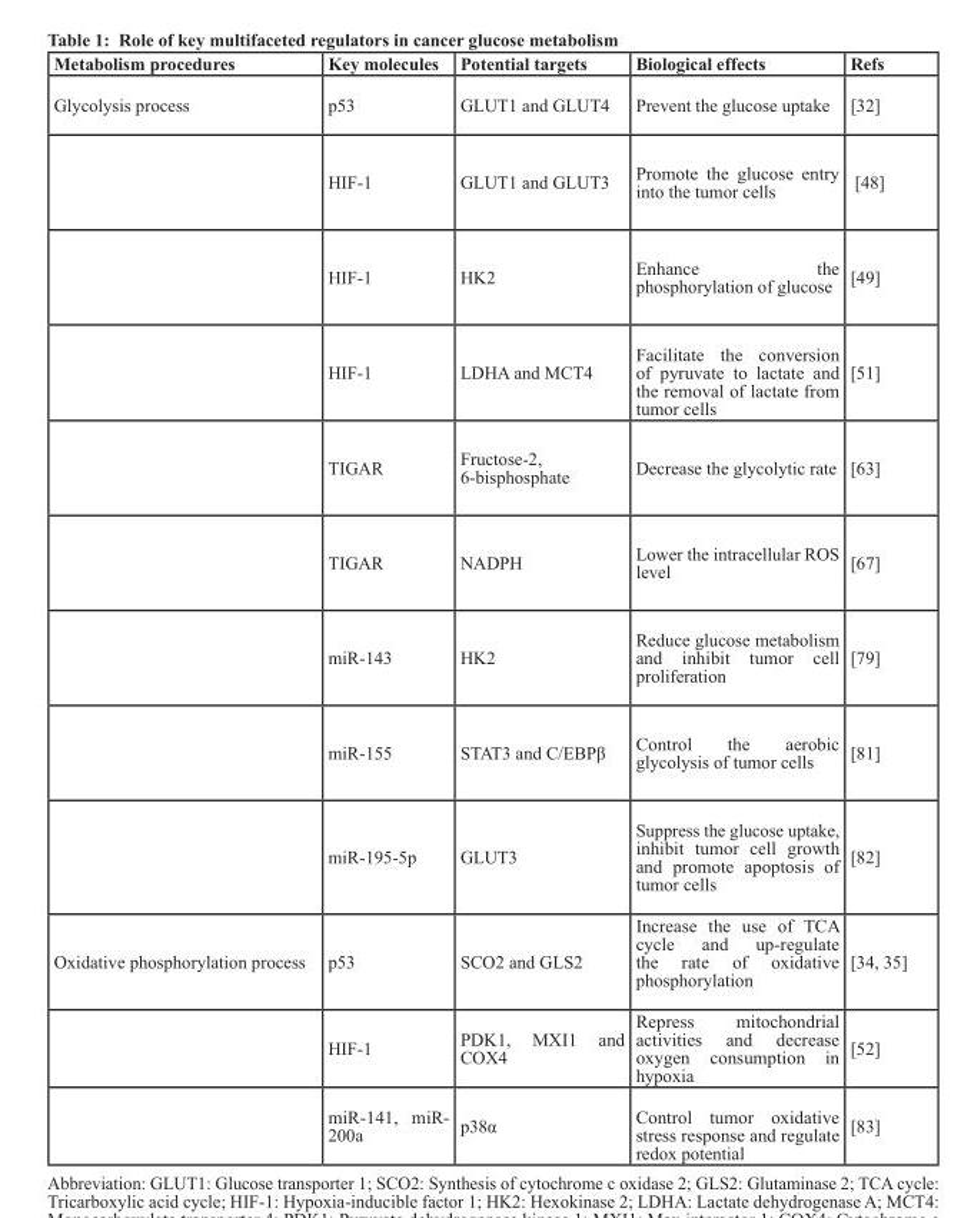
<table><thead><tr><td>Metabolism procedures</td><td>Key molecules</td><td>Potential targets</td><td>Biological effects</td><td>Refs</td></tr></thead><tbody><tr><td rowspan="9">Glycolysis process</td><td>p53</td><td>GLUT1 and GLUT4</td><td>Prevent the glucose uptake</td><td>[32]</td></tr><tr><td>HIF-1</td><td>GLUT1 and GLUT3</td><td>Promote the glucose entry into the tumor cells</td><td>[48]</td></tr><tr><td>HIF-1</td><td>HK2</td><td>Enhance the phosphorylation of glucose</td><td>[49]</td></tr><tr><td>HIF-1</td><td>LDHA and MCT4</td><td>Facilitate the conversion of pyruvate to lactate and the removal of lactate from tumor cells</td><td>[51]</td></tr><tr><td>TIGAR</td><td>Fructose-2, 6-bisphosphate</td><td>Decrease the glycolytic rate</td><td>[63]</td></tr><tr><td>TIGAR</td><td>NADPH</td><td>Lower the intracellular ROS level</td><td>[67]</td></tr><tr><td>miR-143</td><td>HK2</td><td>Reduce glucose metabolism and inhibit tumor cell proliferation</td><td>[79]</td></tr><tr><td>miR-155</td><td>STAT3 and C/EBPβ</td><td>Control the aerobic glycolysis of tumor cells</td><td>[81]</td></tr><tr><td>miR-195-5p</td><td>GLUT3</td><td>Suppress the glucose uptake, inhibit tumor cell growth and promote apoptosis of tumor cells</td><td>[82]</td></tr><tr><td rowspan="3">Oxidative phosphorylation process</td><td>p53</td><td>SCO2 and GLS2</td><td>Increase the use of TCA cycle and up-regulate the rate of oxidative phosphorylation</td><td>[34, 35]</td></tr><tr><td>HIF-1</td><td>PDK1, MXI1 and COX4</td><td>Repress mitochondrial activities and decrease oxygen consumption in hypoxia</td><td>[52]</td></tr><tr><td>miR-141, miR- 200a</td><td>p38α</td><td>Control tumor oxidative stress response and regulate redox potential</td><td>[83]</td></tr></tbody></table>